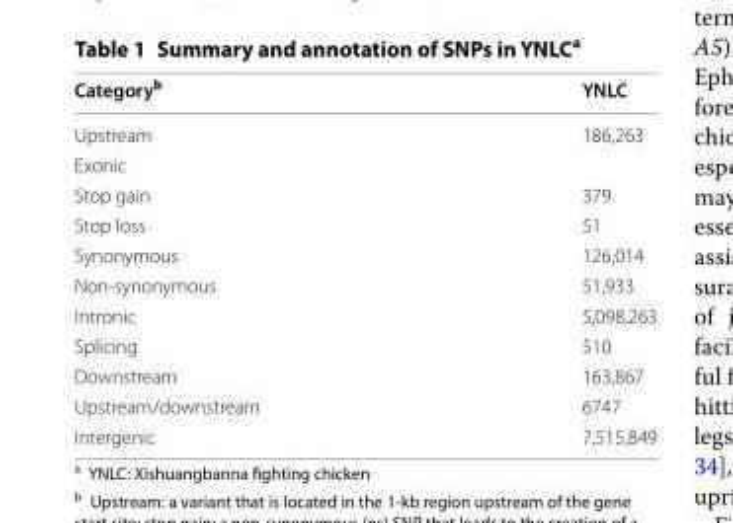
<table><thead><tr><td>Category<sup>b</sup></td><td>YNLC</td></tr></thead><tbody><tr><td>Upstream</td><td>186,263</td></tr><tr><td colspan="2">Exonic</td></tr><tr><td>Stop gain</td><td>379</td></tr><tr><td>Stop loss</td><td>51</td></tr><tr><td>Synonymous</td><td>126,014</td></tr><tr><td>Non-synonymous</td><td>51,933</td></tr><tr><td>Intronic</td><td>5,098,263</td></tr><tr><td>Splicing</td><td>510</td></tr><tr><td>Downstream</td><td>163,867</td></tr><tr><td>Upstream/downstream</td><td>6747</td></tr><tr><td>Intergenic</td><td>7,515,849</td></tr></tbody></table>